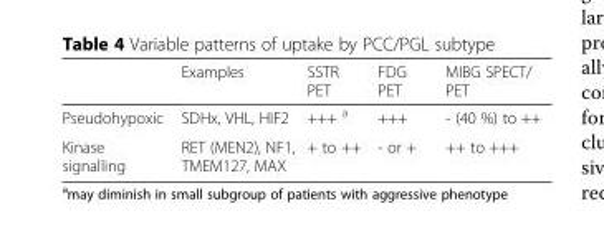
<table><thead><tr><td></td><td>Examples</td><td>SSTR PET</td><td>FDG PET</td><td>MIBG SPECT/ PET</td></tr></thead><tbody><tr><td>Pseudohypoxic</td><td>SDHx, VHL, HIF2</td><td>+++ <sup>a</sup></td><td>+++</td><td>- (40 %) to ++</td></tr><tr><td>Kinase signalling</td><td>RET (MEN2), NF1, TMEM127, MAX</td><td>+ to ++</td><td>- or +</td><td>++ to +++</td></tr></tbody></table>